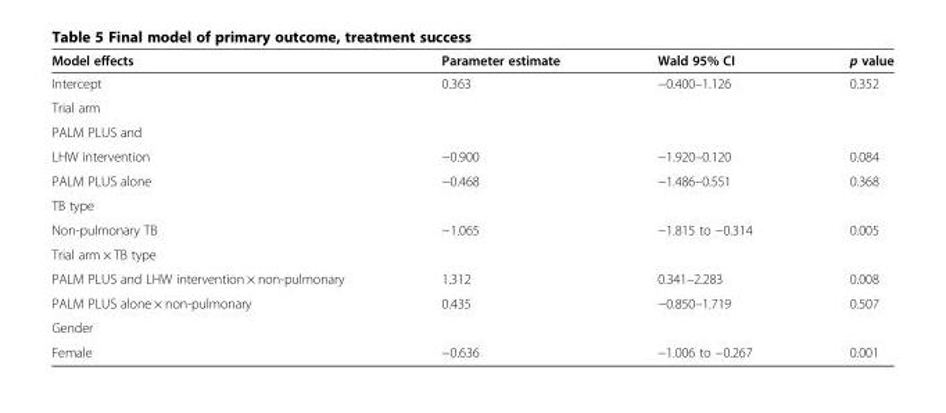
<table><thead><tr><td>Model effects</td><td>Parameter estimate</td><td>Wald 95% CI</td><td>p value</td></tr></thead><tbody><tr><td>Intercept</td><td>0.363</td><td>−0.400–1.126</td><td>0.352</td></tr><tr><td colspan="4">Trial arm</td></tr><tr><td colspan="4">PALM PLUS and</td></tr><tr><td>LHW intervention</td><td>−0.900</td><td>−1.920–0.120</td><td>0.084</td></tr><tr><td>PALM PLUS alone</td><td>−0.468</td><td>−1.486–0.551</td><td>0.368</td></tr><tr><td colspan="4">TB type</td></tr><tr><td>Non-pulmonary TB</td><td>−1.065</td><td>−1.815 to −0.314</td><td>0.005</td></tr><tr><td colspan="4">Trial arm × TB type</td></tr><tr><td>PALM PLUS and LHW intervention × non-pulmonary</td><td>1.312</td><td>0.341–2.283</td><td>0.008</td></tr><tr><td>PALM PLUS alone × non-pulmonary</td><td>0.435</td><td>−0.850–1.719</td><td>0.507</td></tr><tr><td colspan="4">Gender</td></tr><tr><td>Female</td><td>−0.636</td><td>−1.006 to −0.267</td><td>0.001</td></tr></tbody></table>